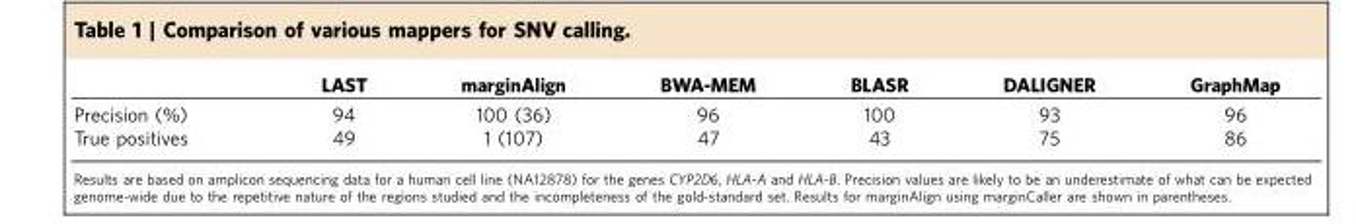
<table><thead><tr><td></td><td>LAST</td><td>marginAlign</td><td>BWA-MEM</td><td>BLASR</td><td>DALIGNER</td><td>GraphMap</td></tr></thead><tbody><tr><td>Precision (%)</td><td>94</td><td>100 (36)</td><td>96</td><td>100</td><td>93</td><td>96</td></tr><tr><td>True positives</td><td>49</td><td>1 (107)</td><td>47</td><td>43</td><td>75</td><td>86</td></tr></tbody></table>